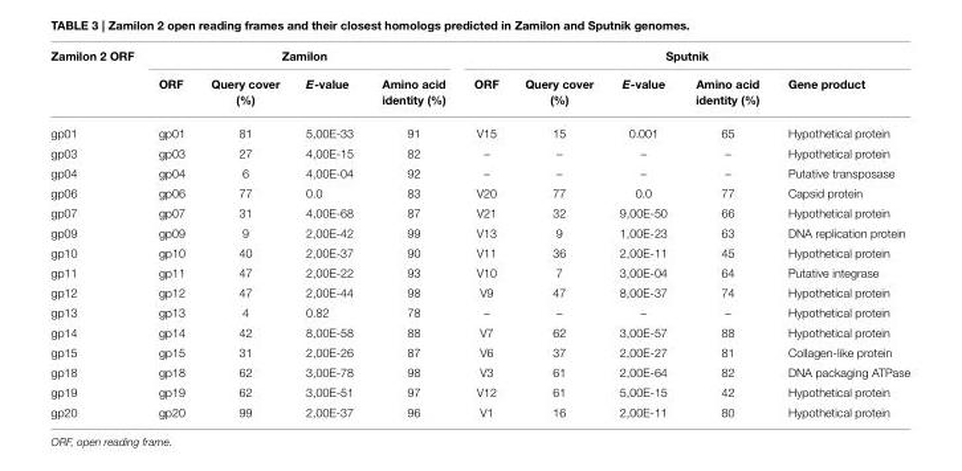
<table><thead><tr><td rowspan="2">Zamilon 2 ORF</td><td colspan="4">Zamilon</td><td colspan="5">Sputnik</td></tr><tr><td>ORF</td><td>Query cover (%)</td><td>E-value</td><td>Amino acid identity (%)</td><td>ORF</td><td>Query cover (%)</td><td>E-value</td><td>Amino acid identity (%)</td><td>Gene product</td></tr></thead><tbody><tr><td>gp01</td><td>gp01</td><td>81</td><td>5,00E-33</td><td>91</td><td>V15</td><td>15</td><td>0.001</td><td>65</td><td>Hypothetical protein</td></tr><tr><td>gp03</td><td>gp03</td><td>27</td><td>4,00E-15</td><td>82</td><td>–</td><td>–</td><td>–</td><td>–</td><td>Hypothetical protein</td></tr><tr><td>gp04</td><td>gp04</td><td>6</td><td>4,00E-04</td><td>92</td><td>–</td><td>–</td><td>–</td><td>–</td><td>Putative transposase</td></tr><tr><td>gp06</td><td>gp06</td><td>77</td><td>0.0</td><td>83</td><td>V20</td><td>77</td><td>0.0</td><td>77</td><td>Capsid protein</td></tr><tr><td>gp07</td><td>gp07</td><td>31</td><td>4,00E-68</td><td>87</td><td>V21</td><td>32</td><td>9,00E-50</td><td>66</td><td>Hypothetical protein</td></tr><tr><td>gp09</td><td>gp09</td><td>9</td><td>2,00E-42</td><td>99</td><td>V13</td><td>9</td><td>1,00E-23</td><td>63</td><td>DNA replication protein</td></tr><tr><td>gp10</td><td>gp10</td><td>40</td><td>2,00E-37</td><td>90</td><td>V11</td><td>36</td><td>2,00E-11</td><td>45</td><td>Hypothetical protein</td></tr><tr><td>gp11</td><td>gp11</td><td>47</td><td>2,00E-22</td><td>93</td><td>V10</td><td>7</td><td>3,00E-04</td><td>64</td><td>Putative integrase</td></tr><tr><td>gp12</td><td>gp12</td><td>47</td><td>2,00E-44</td><td>98</td><td>V9</td><td>47</td><td>8,00E-37</td><td>74</td><td>Hypothetical protein</td></tr><tr><td>gp13</td><td>gp13</td><td>4</td><td>0.82</td><td>78</td><td>–</td><td>–</td><td>–</td><td>–</td><td>Hypothetical protein</td></tr><tr><td>gp14</td><td>gp14</td><td>42</td><td>8,00E-58</td><td>88</td><td>V7</td><td>62</td><td>3,00E-57</td><td>88</td><td>Hypothetical protein</td></tr><tr><td>gp15</td><td>gp15</td><td>31</td><td>2,00E-26</td><td>87</td><td>V6</td><td>37</td><td>2,00E-27</td><td>81</td><td>Collagen-like protein</td></tr><tr><td>gp18</td><td>gp18</td><td>62</td><td>3,00E-78</td><td>98</td><td>V3</td><td>61</td><td>2,00E-64</td><td>82</td><td>DNA packaging ATPase</td></tr><tr><td>gp19</td><td>gp19</td><td>62</td><td>3,00E-51</td><td>97</td><td>V12</td><td>61</td><td>5,00E-15</td><td>42</td><td>Hypothetical protein</td></tr><tr><td>gp20</td><td>gp20</td><td>99</td><td>2,00E-37</td><td>96</td><td>V1</td><td>16</td><td>2,00E-11</td><td>80</td><td>Hypothetical protein</td></tr></tbody></table>